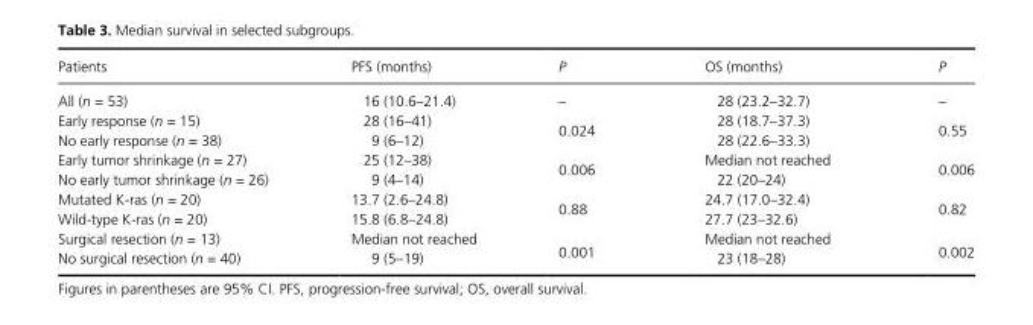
<table><thead><tr><td>Patients</td><td>PFS (months)</td><td>P</td><td>OS (months)</td><td>P</td></tr></thead><tbody><tr><td>All (n = 53)</td><td>16 (10.6–21.4)</td><td>–</td><td>28 (23.2–32.7)</td><td>–</td></tr><tr><td>Early response (n = 15)</td><td>28 (16–41)</td><td rowspan="2">0.024</td><td>28 (18.7–37.3)</td><td rowspan="2">0.55</td></tr><tr><td>No early response (n = 38)</td><td>9 (6–12)</td><td>28 (22.6–33.3)</td></tr><tr><td>Early tumor shrinkage (n = 27)</td><td>25 (12–38)</td><td rowspan="2">0.006</td><td>Median not reached</td><td rowspan="2">0.006</td></tr><tr><td>No early tumor shrinkage (n = 26)</td><td>9 (4–14)</td><td>22 (20–24)</td></tr><tr><td>Mutated K- ras (n = 20)</td><td>13.7 (2.6–24.8)</td><td rowspan="2">0.88</td><td>24.7 (17.0–32.4)</td><td rowspan="2">0.82</td></tr><tr><td>Wild- type K- ras (n = 20)</td><td>15.8 (6.8–24.8)</td><td>27.7 (23–32.6)</td></tr><tr><td>Surgical resection (n = 13)</td><td>Median not reached</td><td rowspan="2">0.001</td><td>Median not reached</td><td rowspan="2">0.002</td></tr><tr><td>No surgical resection (n = 40)</td><td>9 (5–19)</td><td>23 (18–28)</td></tr></tbody></table>